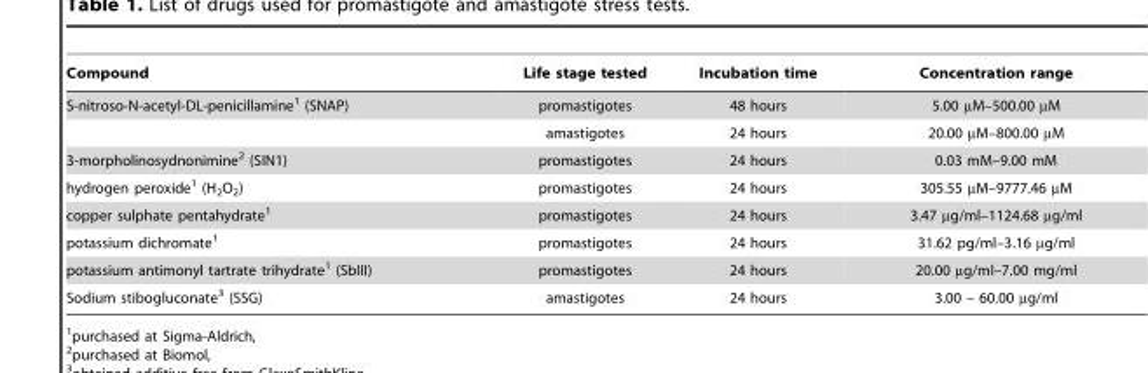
<table><thead><tr><td>Compound</td><td>Life stage tested</td><td>Incubation time</td><td>Concentration range</td></tr></thead><tbody><tr><td rowspan="2">S-nitroso-N-acetyl-DL-penicillamine<sup>1</sup> (SNAP)</td><td>promastigotes</td><td>48 hours</td><td>5.00 µM–500.00 µM</td></tr><tr><td>amastigotes</td><td>24 hours</td><td>20.00 µM–800.00 µM</td></tr><tr><td>3-morpholinosydnonimine<sup>2</sup> (SIN1)</td><td>promastigotes</td><td>24 hours</td><td>0.03 mM–9.00 mM</td></tr><tr><td>hydrogen peroxide<sup>1</sup> (H<sub>2</sub>O<sub>2</sub>)</td><td>promastigotes</td><td>24 hours</td><td>305.55 µM–9777.46 µM</td></tr><tr><td>copper sulphate pentahydrate<sup>1</sup></td><td>promastigotes</td><td>24 hours</td><td>3.47 µg/ml–1124.68 µg/ml</td></tr><tr><td>potassium dichromate<sup>1</sup></td><td>promastigotes</td><td>24 hours</td><td>31.62 pg/ml–3.16 µg/ml</td></tr><tr><td>potassium antimonyl tartrate trihydrate<sup>1</sup> (SbIII)</td><td>promastigotes</td><td>24 hours</td><td>20.00 µg/ml–7.00 mg/ml</td></tr><tr><td>Sodium stibogluconate<sup>3</sup> (SSG)</td><td>amastigotes</td><td>24 hours</td><td>3.00 – 60.00 µg/ml</td></tr></tbody></table>